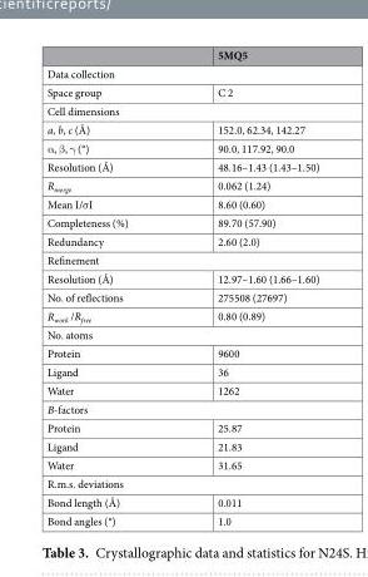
<table><thead><tr><td></td><td>5MQ5</td></tr></thead><tbody><tr><td colspan="2">Data collection</td></tr><tr><td>Space group</td><td>C 2</td></tr><tr><td colspan="2">Cell dimensions</td></tr><tr><td>a, b, c (Å)</td><td>152.0, 62.34, 142.27</td></tr><tr><td>α, β, γ (°)</td><td>90.0, 117.92, 90.0</td></tr><tr><td>Resolution (Å)</td><td>48.16–1.43 (1.43–1.50)</td></tr><tr><td>R<sub>merge</sub></td><td>0.062 (1.24)</td></tr><tr><td>Mean I/σI</td><td>8.60 (0.60)</td></tr><tr><td>Completeness (%)</td><td>89.70 (57.90)</td></tr><tr><td>Redundancy</td><td>2.60 (2.0)</td></tr><tr><td colspan="2">Refinement</td></tr><tr><td>Resolution (Å)</td><td>12.97–1.60 (1.66–1.60)</td></tr><tr><td>No. of reflections</td><td>275508 (27697)</td></tr><tr><td>R<sub>work</sub> /R<sub>free</sub></td><td>0.80 (0.89)</td></tr><tr><td colspan="2">No. atoms</td></tr><tr><td>Protein</td><td>9600</td></tr><tr><td>Ligand</td><td>36</td></tr><tr><td>Water</td><td>1262</td></tr><tr><td colspan="2">B-factors</td></tr><tr><td>Protein</td><td>25.87</td></tr><tr><td>Ligand</td><td>21.83</td></tr><tr><td>Water</td><td>31.65</td></tr><tr><td colspan="2">R.m.s. deviations</td></tr><tr><td>Bond length (Å)</td><td>0.011</td></tr><tr><td>Bond angles (°)</td><td>1.0</td></tr></tbody></table>